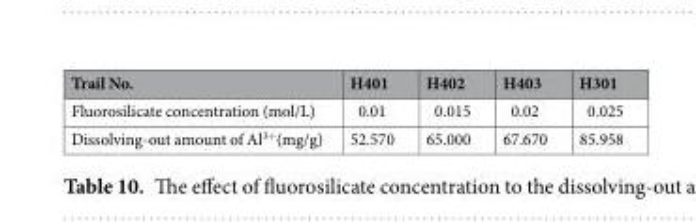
<table><thead><tr><td>Trail No.</td><td>H401</td><td>H402</td><td>H403</td><td>H301</td></tr></thead><tbody><tr><td>Fluorosilicate concentration (mol/L)</td><td>0.01</td><td>0.015</td><td>0.02</td><td>0.025</td></tr><tr><td>Dissolving-out amount of Al<sup>3+</sup>(mg/g)</td><td>52.570</td><td>65.000</td><td>67.670</td><td>85.958</td></tr></tbody></table>